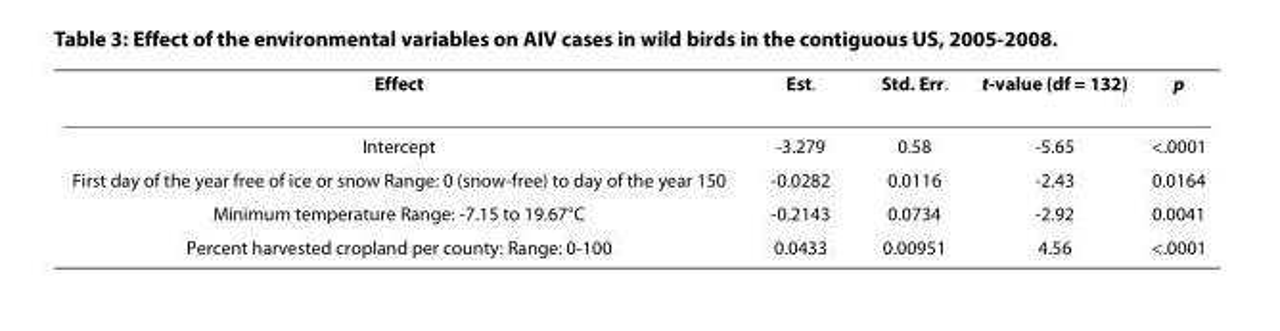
<table><thead><tr><td>Effect</td><td>Est.</td><td>Std. Err.</td><td>t-value (df = 132)</td><td>p</td></tr></thead><tbody><tr><td>Intercept</td><td>-3.279</td><td>0.58</td><td>-5.65</td><td>&lt;.0001</td></tr><tr><td>First day of the year free of ice or snow Range: 0 (snow-free) to day of the year 150</td><td>-0.0282</td><td>0.0116</td><td>-2.43</td><td>0.0164</td></tr><tr><td>Minimum temperature Range: -7.15 to 19.67°C</td><td>-0.2143</td><td>0.0734</td><td>-2.92</td><td>0.0041</td></tr><tr><td>Percent harvested cropland per county: Range: 0-100</td><td>0.0433</td><td>0.00951</td><td>4.56</td><td>&lt;.0001</td></tr></tbody></table>